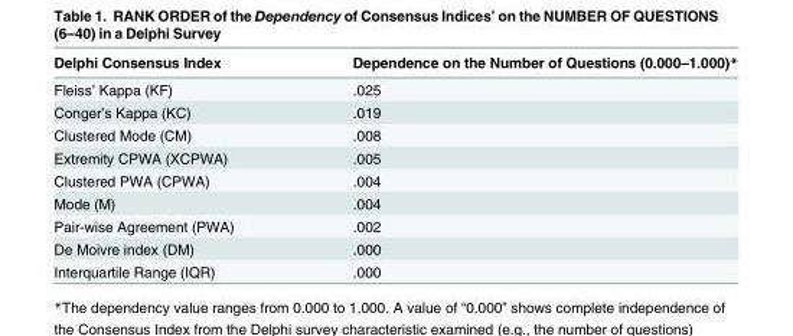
<table><thead><tr><td>Delphi Consensus Index</td><td>Dependence on the Number of Questions (0.000–1.000)*</td></tr></thead><tbody><tr><td>Fleiss’ Kappa (KF)</td><td>.025</td></tr><tr><td>Conger’s Kappa (KC)</td><td>.019</td></tr><tr><td>Clustered Mode (CM)</td><td>.008</td></tr><tr><td>Extremity CPWA (XCPWA)</td><td>.005</td></tr><tr><td>Clustered PWA (CPWA)</td><td>.004</td></tr><tr><td>Mode (M)</td><td>.004</td></tr><tr><td>Pair-wise Agreement (PWA)</td><td>.002</td></tr><tr><td>De Moivre index (DM)</td><td>.000</td></tr><tr><td>Interquartile Range (IQR)</td><td>.000</td></tr></tbody></table>